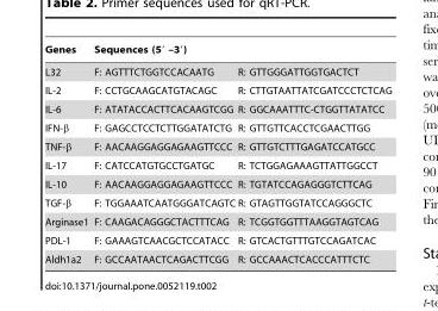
<table><thead><tr><td rowspan="2">Genes L32</td><td colspan="2">Sequences (5′ –3′)</td></tr><tr><td>F: AGTTTCTGGTCCACAATG</td><td>R: GTTGGGATTGGTGACTCT</td></tr></thead><tbody><tr><td>IL-2</td><td>F: CCTGCAAGCATGTACAGC</td><td>R: CTTGTAATTATCGATCCCTCTCAG</td></tr><tr><td>IL-6</td><td>F: ATATACCACTTCACAAGTCGG</td><td>R: GGCAAATTTC-CTGGTTATATCC</td></tr><tr><td>IFN-β</td><td>F: GAGCCTCCTCTTGGATATCTG</td><td>R: GTTGTTCACCTCGAACTTGG</td></tr><tr><td>TNF-β</td><td>F: AACAAGGAGGAGAAGTTCCC</td><td>R: GTTGTCTTTGAGATCCATGCC</td></tr><tr><td>IL-17</td><td>F: CATCCATGTGCCTGATGC</td><td>R: TCTGGAGAAAGTTATTGGCCT</td></tr><tr><td>IL-10</td><td>F: AACAAGGAGGAGAAGTTCCC</td><td>R: TGTATCCAGAGGGTCTTCAG</td></tr><tr><td>TGF-β</td><td>F: TGGAAATCAATGGGATCAGTC</td><td>R: GTAGTTGGTATCCAGGGCTC</td></tr><tr><td>Arginase1</td><td>F: CAAGACAGGGCTACTTTCAG</td><td>R: TCGGTGGTTTAAGGTAGTCAG</td></tr><tr><td>PDL-1</td><td>F: GAAAGTCAACGCTCCATACC</td><td>R: GTCACTGTTTGTCCAGATCAC</td></tr><tr><td>Aldh1a2</td><td>F: GCCAATAACTCAGACTTCGG</td><td>R: GCCAAACTCACCCATTTCTC</td></tr></tbody></table>